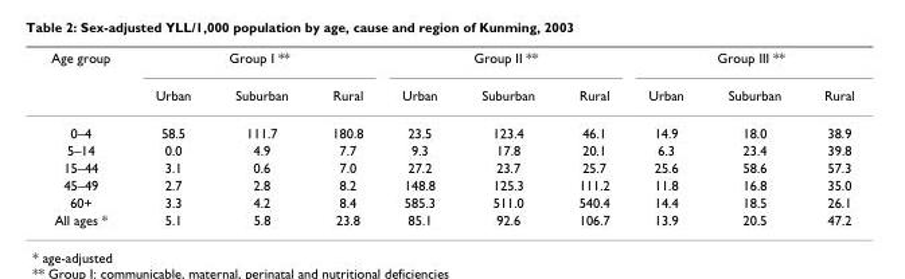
<table><thead><tr><td rowspan="2">Age group</td><td colspan="3">Group I **</td><td colspan="3">Group II **</td><td colspan="3">Group III **</td></tr><tr><td>Urban</td><td>Suburban</td><td>Rural</td><td>Urban</td><td>Suburban</td><td>Rural</td><td>Urban</td><td>Suburban</td><td>Rural</td></tr></thead><tbody><tr><td>0–4</td><td>58.5</td><td>111.7</td><td>180.8</td><td>23.5</td><td>123.4</td><td>46.1</td><td>14.9</td><td>18.0</td><td>38.9</td></tr><tr><td>5–14</td><td>0.0</td><td>4.9</td><td>7.7</td><td>9.3</td><td>17.8</td><td>20.1</td><td>6.3</td><td>23.4</td><td>39.8</td></tr><tr><td>15–44</td><td>3.1</td><td>0.6</td><td>7.0</td><td>27.2</td><td>23.7</td><td>25.7</td><td>25.6</td><td>58.6</td><td>57.3</td></tr><tr><td>45–49</td><td>2.7</td><td>2.8</td><td>8.2</td><td>148.8</td><td>125.3</td><td>111.2</td><td>11.8</td><td>16.8</td><td>35.0</td></tr><tr><td>60+</td><td>3.3</td><td>4.2</td><td>8.4</td><td>585.3</td><td>511.0</td><td>540.4</td><td>14.4</td><td>18.5</td><td>26.1</td></tr><tr><td>All ages *</td><td>5.1</td><td>5.8</td><td>23.8</td><td>85.1</td><td>92.6</td><td>106.7</td><td>13.9</td><td>20.5</td><td>47.2</td></tr></tbody></table>